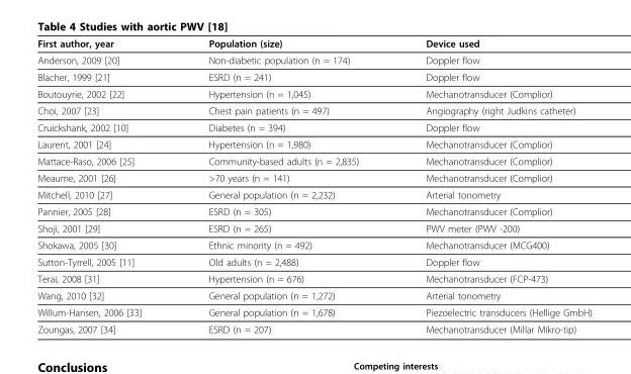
<table><thead><tr><td>First author, year</td><td>Population (size)</td><td>Device used</td></tr></thead><tbody><tr><td>Anderson, 2009 [20]</td><td>Non-diabetic population (n = 174)</td><td>Doppler flow</td></tr><tr><td>Blacher, 1999 [21]</td><td>ESRD (n = 241)</td><td>Doppler flow</td></tr><tr><td>Boutouyrie, 2002 [22]</td><td>Hypertension (n = 1,045)</td><td>Mechanotransducer (Complior)</td></tr><tr><td>Choi, 2007 [23]</td><td>Chest pain patients (n = 497)</td><td>Angiography (right Judkins catheter)</td></tr><tr><td>Cruickshank, 2002 [10]</td><td>Diabetes (n = 394)</td><td>Doppler flow</td></tr><tr><td>Laurent, 2001 [24]</td><td>Hypertension (n = 1,980)</td><td>Mechanotransducer (Complior)</td></tr><tr><td>Mattace-Raso, 2006 [25]</td><td>Community-based adults (n = 2,835)</td><td>Mechanotransducer (Complior)</td></tr><tr><td>Meaume, 2001 [26]</td><td>&gt;70 years (n = 141)</td><td>Mechanotransducer (Complior)</td></tr><tr><td>Mitchell, 2010 [27]</td><td>General population (n = 2,232)</td><td>Arterial tonometry</td></tr><tr><td>Pannier, 2005 [28]</td><td>ESRD (n = 305)</td><td>Mechanotransducer (Complior)</td></tr><tr><td>Shoji, 2001 [29]</td><td>ESRD (n = 265)</td><td>PWV meter (PWV -200)</td></tr><tr><td>Shokawa, 2005 [30]</td><td>Ethnic minority (n = 492)</td><td>Mechanotransducer (MCG400)</td></tr><tr><td>Sutton-Tyrrell, 2005 [11]</td><td>Old adults (n = 2,488)</td><td>Doppler flow</td></tr><tr><td>Terai, 2008 [31]</td><td>Hypertension (n = 676)</td><td>Mechanotransducer (FCP-473)</td></tr><tr><td>Wang, 2010 [32]</td><td>General population (n = 1,272)</td><td>Arterial tonometry</td></tr><tr><td>Willum-Hansen, 2006 [33]</td><td>General population (n = 1,678)</td><td>Piezoelectric transducers (Hellige GmbH)</td></tr><tr><td>Zoungas, 2007 [34]</td><td>ESRD (n = 207)</td><td>Mechanotransducer (Millar Mikro-tip)</td></tr></tbody></table>